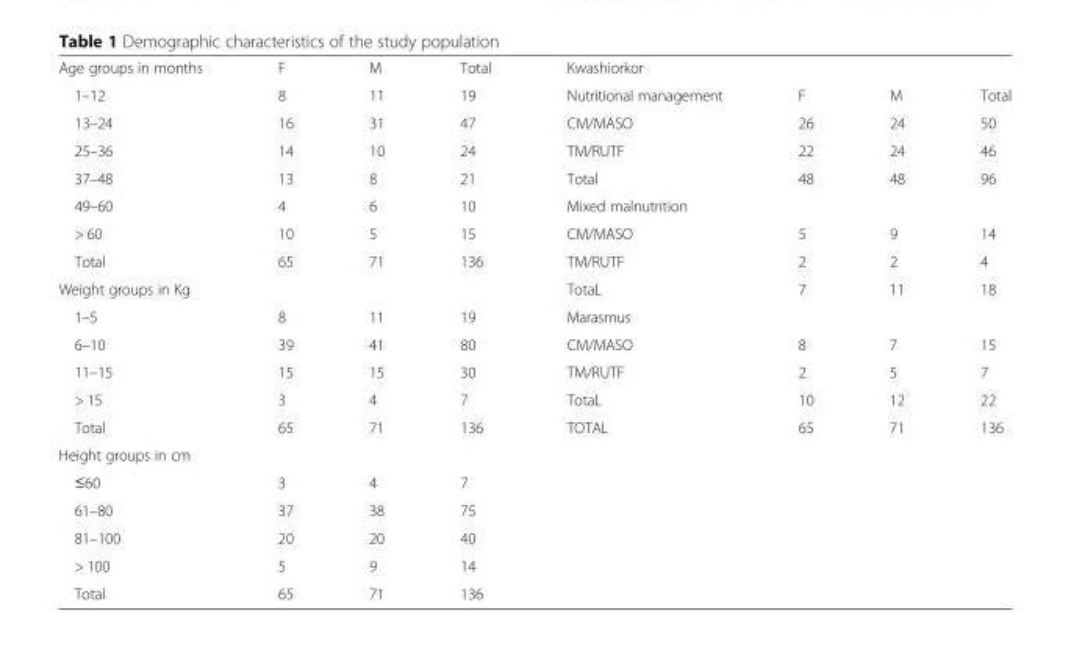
<table><tbody><tr><td>Age groups in months</td><td>F</td><td>M</td><td>Total</td><td>Kwashiorkor</td><td></td><td></td><td></td></tr><tr><td>1–12</td><td>8</td><td>11</td><td>19</td><td>Nutritional management</td><td>F</td><td>M</td><td>Total</td></tr><tr><td>13–24</td><td>16</td><td>31</td><td>47</td><td>CM/MASO</td><td>26</td><td>24</td><td>50</td></tr><tr><td>25–36</td><td>14</td><td>10</td><td>24</td><td>TM/RUTF</td><td>22</td><td>24</td><td>46</td></tr><tr><td>37–48</td><td>13</td><td>8</td><td>21</td><td>Total</td><td>48</td><td>48</td><td>96</td></tr><tr><td>49–60</td><td>4</td><td>6</td><td>10</td><td>Mixed malnutrition</td><td></td><td></td><td></td></tr><tr><td>&gt; 60</td><td>10</td><td>5</td><td>15</td><td>CM/MASO</td><td>5</td><td>9</td><td>14</td></tr><tr><td>Total</td><td>65</td><td>71</td><td>136</td><td>TM/RUTF</td><td>2</td><td>2</td><td>4</td></tr><tr><td>Weight groups in Kg</td><td></td><td></td><td></td><td>TotaL</td><td>7</td><td>11</td><td>18</td></tr><tr><td>1–5</td><td>8</td><td>11</td><td>19</td><td>Marasmus</td><td></td><td></td><td></td></tr><tr><td>6–10</td><td>39</td><td>41</td><td>80</td><td>CM/MASO</td><td>8</td><td>7</td><td>15</td></tr><tr><td>11–15</td><td>15</td><td>15</td><td>30</td><td>TM/RUTF</td><td>2</td><td>5</td><td>7</td></tr><tr><td>&gt; 15</td><td>3</td><td>4</td><td>7</td><td>TotaL</td><td>10</td><td>12</td><td>22</td></tr><tr><td>Total</td><td>65</td><td>71</td><td>136</td><td>TOTAL</td><td>65</td><td>71</td><td>136</td></tr><tr><td colspan="8">Height groups in cm</td></tr><tr><td>≤60</td><td>3</td><td>4</td><td>7</td><td></td><td></td><td></td><td></td></tr><tr><td>61–80</td><td>37</td><td>38</td><td>75</td><td></td><td></td><td></td><td></td></tr><tr><td>81–100</td><td>20</td><td>20</td><td>40</td><td></td><td></td><td></td><td></td></tr><tr><td>&gt; 100</td><td>5</td><td>9</td><td>14</td><td></td><td></td><td></td><td></td></tr><tr><td>Total</td><td>65</td><td>71</td><td>136</td><td></td><td></td><td></td><td></td></tr></tbody></table>